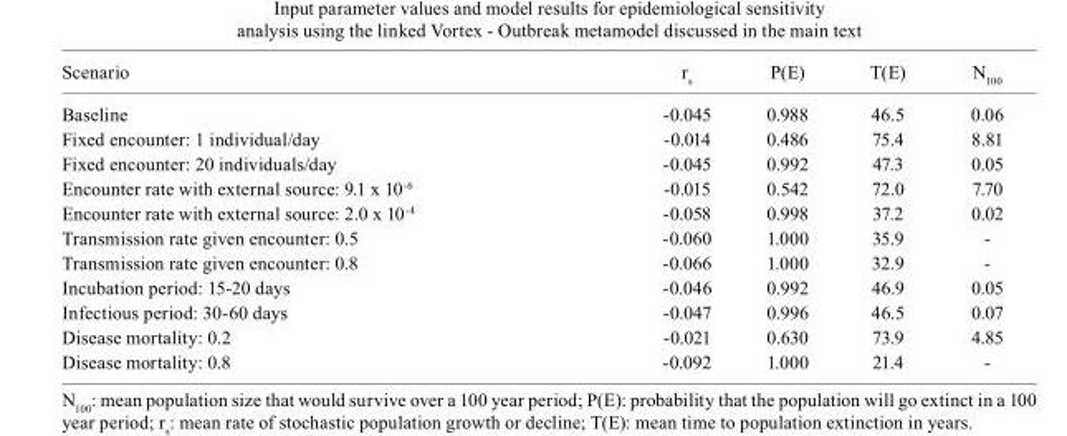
<table><thead><tr><td>Scenario</td><td>r<sub>s</sub></td><td>P(E)</td><td>T(E)</td><td>N<sub>100</sub></td></tr></thead><tbody><tr><td>Baseline</td><td>-0.045</td><td>0.988</td><td>46.5</td><td>0.06</td></tr><tr><td>Fixed encounter: 1 individual/day</td><td>-0.014</td><td>0.486</td><td>75.4</td><td>8.81</td></tr><tr><td>Fixed encounter: 20 individuals/day</td><td>-0.045</td><td>0.992</td><td>47.3</td><td>0.05</td></tr><tr><td>Encounter rate with external source: 9.1 x 10<sup>-6</sup></td><td>-0.015</td><td>0.542</td><td>72.0</td><td>7.70</td></tr><tr><td>Encounter rate with external source: 2.0 x 10<sup>-4</sup></td><td>-0.058</td><td>0.998</td><td>37.2</td><td>0.02</td></tr><tr><td>Transmission rate given encounter: 0.5</td><td>-0.060</td><td>1.000</td><td>35.9</td><td>-</td></tr><tr><td>Transmission rate given encounter: 0.8</td><td>-0.066</td><td>1.000</td><td>32.9</td><td>-</td></tr><tr><td>Incubation period: 15-20 days</td><td>-0.046</td><td>0.992</td><td>46.9</td><td>0.05</td></tr><tr><td>Infectious period: 30-60 days</td><td>-0.047</td><td>0.996</td><td>46.5</td><td>0.07</td></tr><tr><td>Disease mortality: 0.2</td><td>-0.021</td><td>0.630</td><td>73.9</td><td>4.85</td></tr><tr><td>Disease mortality: 0.8</td><td>-0.092</td><td>1.000</td><td>21.4</td><td>-</td></tr></tbody></table>